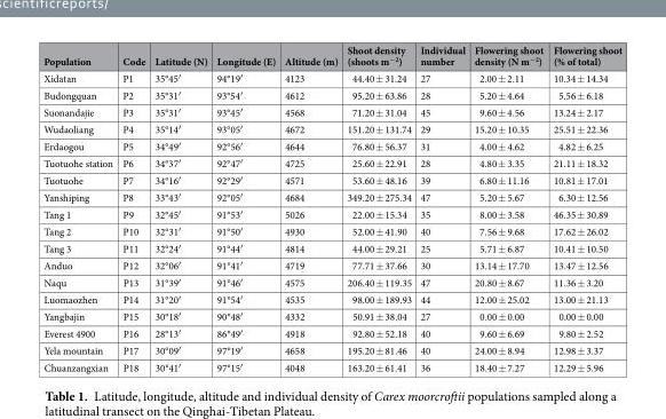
<table><thead><tr><td>Population</td><td>Code</td><td>Latitude (N)</td><td>Longitude (E)</td><td>Altitude (m)</td><td>Shoot density (shoots m<sup>−2</sup>)</td><td>Individual number</td><td>Flowering shoot density (N m<sup>−2</sup>)</td><td>Flowering shoot (% of total)</td></tr></thead><tbody><tr><td>Xidatan</td><td>P1</td><td>35°45′</td><td>94°19′</td><td>4123</td><td>44.40 ± 31.24</td><td>27</td><td>2.00 ± 2.11</td><td>10.34 ± 14.34</td></tr><tr><td>Budongquan</td><td>P2</td><td>35°31′</td><td>93°54′</td><td>4612</td><td>95.20 ± 63.86</td><td>28</td><td>5.20 ± 4.64</td><td>5.56 ± 6.18</td></tr><tr><td>Suonandajie</td><td>P3</td><td>35°31′</td><td>93°45′</td><td>4568</td><td>71.20 ± 31.04</td><td>45</td><td>9.60 ± 4.56</td><td>13.24 ± 2.17</td></tr><tr><td>Wudaoliang</td><td>P4</td><td>35°14′</td><td>93°05′</td><td>4672</td><td>151.20 ± 131.74</td><td>29</td><td>15.20 ± 10.35</td><td>25.51 ± 22.36</td></tr><tr><td>Erdaogou</td><td>P5</td><td>34°49′</td><td>92°56′</td><td>4644</td><td>76.80 ± 56.37</td><td>31</td><td>4.00 ± 4.62</td><td>4.82 ± 6.25</td></tr><tr><td>Tuotuohe station</td><td>P6</td><td>34°37′</td><td>92°47′</td><td>4725</td><td>25.60 ± 22.91</td><td>28</td><td>4.80 ± 3.35</td><td>21.11 ± 18.32</td></tr><tr><td>Tuotuohe</td><td>P7</td><td>34°16′</td><td>92°29′</td><td>4571</td><td>53.60 ± 48.16</td><td>39</td><td>6.80 ± 11.16</td><td>10.81 ± 17.01</td></tr><tr><td>Yanshiping</td><td>P8</td><td>33°43′</td><td>92°05′</td><td>4684</td><td>349.20 ± 275.34</td><td>47</td><td>5.20 ± 5.67</td><td>6.30 ± 12.56</td></tr><tr><td>Tang 1</td><td>P9</td><td>32°45′</td><td>91°53′</td><td>5026</td><td>22.00 ± 15.34</td><td>35</td><td>8.00 ± 3.58</td><td>46.35 ± 30.89</td></tr><tr><td>Tang 2</td><td>P10</td><td>32°31′</td><td>91°50′</td><td>4930</td><td>52.00 ± 41.90</td><td>40</td><td>7.56 ± 9.68</td><td>17.62 ± 26.02</td></tr><tr><td>Tang 3</td><td>P11</td><td>32°24′</td><td>91°44′</td><td>4814</td><td>44.00 ± 29.21</td><td>25</td><td>5.71 ± 6.87</td><td>10.41 ± 10.50</td></tr><tr><td>Anduo</td><td>P12</td><td>32°06′</td><td>91°41′</td><td>4719</td><td>77.71 ± 37.66</td><td>30</td><td>13.14 ± 17.70</td><td>13.47 ± 12.56</td></tr><tr><td>Naqu</td><td>P13</td><td>31°39′</td><td>91°46′</td><td>4575</td><td>206.40 ± 119.35</td><td>47</td><td>20.80 ± 8.67</td><td>11.36 ± 3.20</td></tr><tr><td>Luomaozhen</td><td>P14</td><td>31°20′</td><td>91°54′</td><td>4535</td><td>98.00 ± 189.93</td><td>44</td><td>12.00 ± 25.02</td><td>13.00 ± 21.13</td></tr><tr><td>Yangbajin</td><td>P15</td><td>30°18′</td><td>90°48′</td><td>4332</td><td>50.91 ± 38.04</td><td>27</td><td>0.00 ± 0.00</td><td>0.00 ± 0.00</td></tr><tr><td>Everest 4900</td><td>P16</td><td>28°13′</td><td>86°49′</td><td>4918</td><td>92.80 ± 52.18</td><td>40</td><td>9.60 ± 6.69</td><td>9.80 ± 2.52</td></tr><tr><td>Yela mountain</td><td>P17</td><td>30°09′</td><td>97°19′</td><td>4658</td><td>195.20 ± 81.46</td><td>40</td><td>24.00 ± 8.94</td><td>12.98 ± 3.37</td></tr><tr><td>Chuanzangxian</td><td>P18</td><td>30°41′</td><td>97°15′</td><td>4048</td><td>163.20 ± 61.41</td><td>36</td><td>18.40 ± 7.27</td><td>12.29 ± 5.96</td></tr></tbody></table>